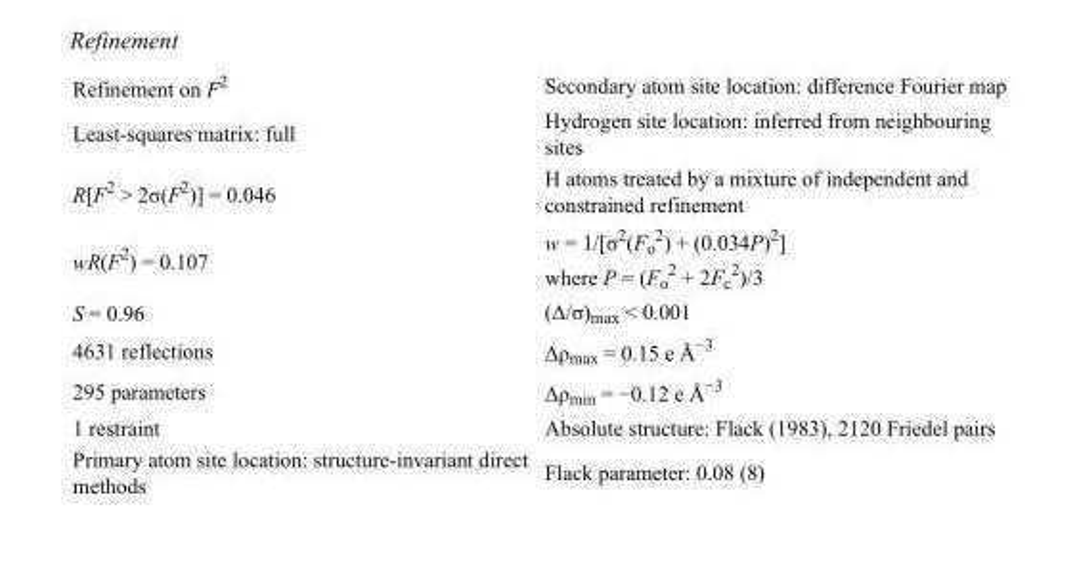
<table><tbody><tr><td>Refinement on F<sup>2</sup></td><td>Secondary atom site location: difference Fourier map</td></tr><tr><td>Least-squares matrix: full</td><td>Hydrogen site location: inferred from neighbouring sites</td></tr><tr><td>R[F<sup>2</sup> &gt; 2σ(F<sup>2</sup>)] = 0.046</td><td>H atoms treated by a mixture of independent and constrained refinement</td></tr><tr><td>wR(F<sup>2</sup>) = 0.107</td><td>w = 1/[σ<sup>2</sup>(F<sub>o</sub> <sup>2</sup>) + (0.034P)<sup>2</sup>] where P = (F<sub>o</sub> <sup>2</sup> + 2F<sub>c</sub> <sup>2</sup>)/3</td></tr><tr><td>S = 0.96</td><td>(Δ/σ)<sub>max</sub> &lt; 0.001</td></tr><tr><td>4631 reflections</td><td>Δρ<sub>max</sub> = 0.15 e Å<sup>−3</sup></td></tr><tr><td>295 parameters</td><td>Δρ<sub>min</sub> = −0.12 e Å<sup>−3</sup></td></tr><tr><td>1 restraint</td><td>Absolute structure: Flack (1983), 2120 Friedel pairs</td></tr><tr><td>Primary atom site location: structure-invariant direct methods</td><td>Flack parameter: 0.08 (8)</td></tr></tbody></table>